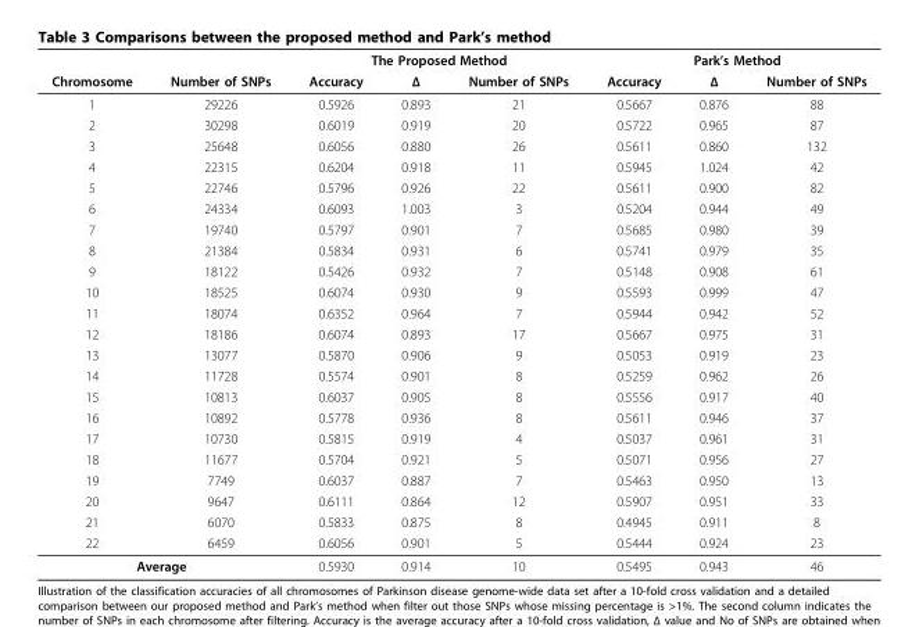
<table><thead><tr><td rowspan="2">Chromosome</td><td rowspan="2">Number of SNPs</td><td colspan="3">The Proposed Method</td><td colspan="3">Park’s Method</td></tr><tr><td>Accuracy</td><td>Δ</td><td>Number of SNPs</td><td>Accuracy</td><td>Δ</td><td>Number of SNPs</td></tr></thead><tbody><tr><td>1</td><td>29226</td><td>0.5926</td><td>0.893</td><td>21</td><td>0.5667</td><td>0.876</td><td>88</td></tr><tr><td>2</td><td>30298</td><td>0.6019</td><td>0.919</td><td>20</td><td>0.5722</td><td>0.965</td><td>87</td></tr><tr><td>3</td><td>25648</td><td>0.6056</td><td>0.880</td><td>26</td><td>0.5611</td><td>0.860</td><td>132</td></tr><tr><td>4</td><td>22315</td><td>0.6204</td><td>0.918</td><td>11</td><td>0.5945</td><td>1.024</td><td>42</td></tr><tr><td>5</td><td>22746</td><td>0.5796</td><td>0.926</td><td>22</td><td>0.5611</td><td>0.900</td><td>82</td></tr><tr><td>6</td><td>24334</td><td>0.6093</td><td>1.003</td><td>3</td><td>0.5204</td><td>0.944</td><td>49</td></tr><tr><td>7</td><td>19740</td><td>0.5797</td><td>0.901</td><td>7</td><td>0.5685</td><td>0.980</td><td>39</td></tr><tr><td>8</td><td>21384</td><td>0.5834</td><td>0.931</td><td>6</td><td>0.5741</td><td>0.979</td><td>35</td></tr><tr><td>9</td><td>18122</td><td>0.5426</td><td>0.932</td><td>7</td><td>0.5148</td><td>0.908</td><td>61</td></tr><tr><td>10</td><td>18525</td><td>0.6074</td><td>0.930</td><td>9</td><td>0.5593</td><td>0.999</td><td>47</td></tr><tr><td>11</td><td>18074</td><td>0.6352</td><td>0.964</td><td>7</td><td>0.5944</td><td>0.942</td><td>52</td></tr><tr><td>12</td><td>18186</td><td>0.6074</td><td>0.893</td><td>17</td><td>0.5667</td><td>0.975</td><td>31</td></tr><tr><td>13</td><td>13077</td><td>0.5870</td><td>0.906</td><td>9</td><td>0.5053</td><td>0.919</td><td>23</td></tr><tr><td>14</td><td>11728</td><td>0.5574</td><td>0.901</td><td>8</td><td>0.5259</td><td>0.962</td><td>26</td></tr><tr><td>15</td><td>10813</td><td>0.6037</td><td>0.905</td><td>8</td><td>0.5556</td><td>0.917</td><td>40</td></tr><tr><td>16</td><td>10892</td><td>0.5778</td><td>0.936</td><td>8</td><td>0.5611</td><td>0.946</td><td>37</td></tr><tr><td>17</td><td>10730</td><td>0.5815</td><td>0.919</td><td>4</td><td>0.5037</td><td>0.961</td><td>31</td></tr><tr><td>18</td><td>11677</td><td>0.5704</td><td>0.921</td><td>5</td><td>0.5071</td><td>0.956</td><td>27</td></tr><tr><td>19</td><td>7749</td><td>0.6037</td><td>0.887</td><td>7</td><td>0.5463</td><td>0.950</td><td>13</td></tr><tr><td>20</td><td>9647</td><td>0.6111</td><td>0.864</td><td>12</td><td>0.5907</td><td>0.951</td><td>33</td></tr><tr><td>21</td><td>6070</td><td>0.5833</td><td>0.875</td><td>8</td><td>0.4945</td><td>0.911</td><td>8</td></tr><tr><td>22</td><td>6459</td><td>0.6056</td><td>0.901</td><td>5</td><td>0.5444</td><td>0.924</td><td>23</td></tr><tr><td colspan="2">Average</td><td>0.5930</td><td>0.914</td><td>10</td><td>0.5495</td><td>0.943</td><td>46</td></tr></tbody></table>